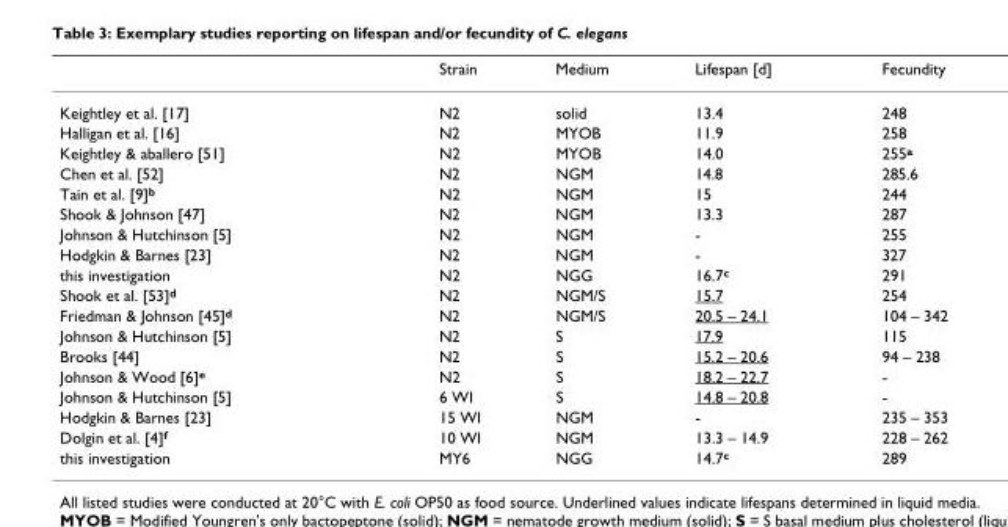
<table><thead><tr><td></td><td>Strain</td><td>Medium</td><td>Lifespan [d]</td><td>Fecundity</td></tr></thead><tbody><tr><td>Keightley et al. [17]</td><td>N2</td><td>solid</td><td>13.4</td><td>248</td></tr><tr><td>Halligan et al. [16]</td><td>N2</td><td>MYOB</td><td>11.9</td><td>258</td></tr><tr><td>Keightley &amp; aballero [51]</td><td>N2</td><td>MYOB</td><td>14.0</td><td>255<sup>a</sup></td></tr><tr><td>Chen et al. [52]</td><td>N2</td><td>NGM</td><td>14.8</td><td>285.6</td></tr><tr><td>Tain et al. [9]<sup>b</sup></td><td>N2</td><td>NGM</td><td>15</td><td>244</td></tr><tr><td>Shook &amp; Johnson [47]</td><td>N2</td><td>NGM</td><td>13.3</td><td>287</td></tr><tr><td>Johnson &amp; Hutchinson [5]</td><td>N2</td><td>NGM</td><td>-</td><td>255</td></tr><tr><td>Hodgkin &amp; Barnes [23]</td><td>N2</td><td>NGM</td><td>-</td><td>327</td></tr><tr><td>this investigation</td><td>N2</td><td>NGG</td><td>16.7<sup>c</sup></td><td>291</td></tr><tr><td>Shook et al. [53]<sup>d</sup></td><td>N2</td><td>NGM/S</td><td>15.7</td><td>254</td></tr><tr><td>Friedman &amp; Johnson [45]<sup>d</sup></td><td>N2</td><td>NGM/S</td><td>20.5 – 24.1</td><td>104 – 342</td></tr><tr><td>Johnson &amp; Hutchinson [5]</td><td>N2</td><td>S</td><td>17.9</td><td>115</td></tr><tr><td>Brooks [44]</td><td>N2</td><td>S</td><td>15.2 – 20.6</td><td>94 – 238</td></tr><tr><td>Johnson &amp; Wood [6]<sup>e</sup></td><td>N2</td><td>S</td><td>18.2 – 22.7</td><td>-</td></tr><tr><td>Johnson &amp; Hutchinson [5]</td><td>6 WI</td><td>S</td><td>14.8 – 20.8</td><td>-</td></tr><tr><td>Hodgkin &amp; Barnes [23]</td><td>15 WI</td><td>NGM</td><td>-</td><td>235 – 353</td></tr><tr><td>Dolgin et al. [4]<sup>f</sup></td><td>10 WI</td><td>NGM</td><td>13.3 – 14.9</td><td>228 – 262</td></tr><tr><td>this investigation</td><td>MY6</td><td>NGG</td><td>14.7<sup>c</sup></td><td>289</td></tr></tbody></table>